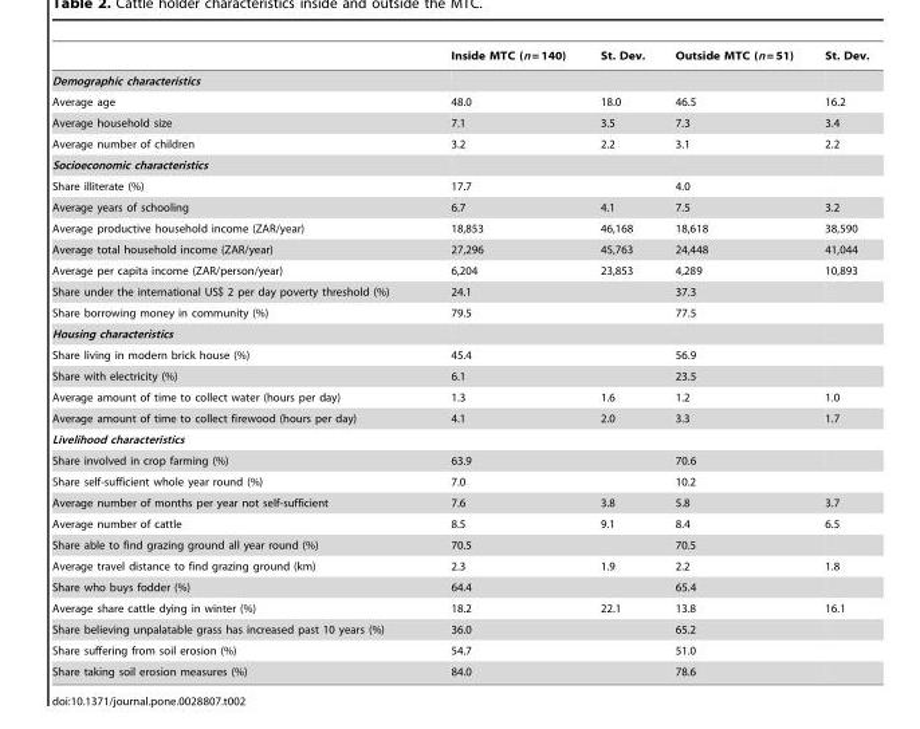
<table><thead><tr><td></td><td>Inside MTC (n = 140)</td><td>St. Dev.</td><td>Outside MTC (n = 51)</td><td>St. Dev.</td></tr></thead><tbody><tr><td colspan="5">Demographic characteristics</td></tr><tr><td>Average age</td><td>48.0</td><td>18.0</td><td>46.5</td><td>16.2</td></tr><tr><td>Average household size</td><td>7.1</td><td>3.5</td><td>7.3</td><td>3.4</td></tr><tr><td>Average number of children</td><td>3.2</td><td>2.2</td><td>3.1</td><td>2.2</td></tr><tr><td colspan="5">Socioeconomic characteristics</td></tr><tr><td>Share illiterate (%)</td><td>17.7</td><td></td><td>4.0</td><td></td></tr><tr><td>Average years of schooling</td><td>6.7</td><td>4.1</td><td>7.5</td><td>3.2</td></tr><tr><td>Average productive household income (ZAR/year)</td><td>18,853</td><td>46,168</td><td>18,618</td><td>38,590</td></tr><tr><td>Average total household income (ZAR/year)</td><td>27,296</td><td>45,763</td><td>24,448</td><td>41,044</td></tr><tr><td>Average per capita income (ZAR/person/year)</td><td>6,204</td><td>23,853</td><td>4,289</td><td>10,893</td></tr><tr><td>Share under the international US$ 2 per day poverty threshold (%)</td><td>24.1</td><td></td><td>37.3</td><td></td></tr><tr><td>Share borrowing money in community (%)</td><td>79.5</td><td></td><td>77.5</td><td></td></tr><tr><td colspan="5">Housing characteristics</td></tr><tr><td>Share living in modern brick house (%)</td><td>45.4</td><td></td><td>56.9</td><td></td></tr><tr><td>Share with electricity (%)</td><td>6.1</td><td></td><td>23.5</td><td></td></tr><tr><td>Average amount of time to collect water (hours per day)</td><td>1.3</td><td>1.6</td><td>1.2</td><td>1.0</td></tr><tr><td>Average amount of time to collect firewood (hours per day)</td><td>4.1</td><td>2.0</td><td>3.3</td><td>1.7</td></tr><tr><td colspan="5">Livelihood characteristics</td></tr><tr><td>Share involved in crop farming (%)</td><td>63.9</td><td></td><td>70.6</td><td></td></tr><tr><td>Share self-sufficient whole year round (%)</td><td>7.0</td><td></td><td>10.2</td><td></td></tr><tr><td>Average number of months per year not self-sufficient</td><td>7.6</td><td>3.8</td><td>5.8</td><td>3.7</td></tr><tr><td>Average number of cattle</td><td>8.5</td><td>9.1</td><td>8.4</td><td>6.5</td></tr><tr><td>Share able to find grazing ground all year round (%)</td><td>70.5</td><td></td><td>70.5</td><td></td></tr><tr><td>Average travel distance to find grazing ground (km)</td><td>2.3</td><td>1.9</td><td>2.2</td><td>1.8</td></tr><tr><td>Share who buys fodder (%)</td><td>64.4</td><td></td><td>65.4</td><td></td></tr><tr><td>Average share cattle dying in winter (%)</td><td>18.2</td><td>22.1</td><td>13.8</td><td>16.1</td></tr><tr><td>Share believing unpalatable grass has increased past 10 years (%)</td><td>36.0</td><td></td><td>65.2</td><td></td></tr><tr><td>Share suffering from soil erosion (%)</td><td>54.7</td><td></td><td>51.0</td><td></td></tr><tr><td>Share taking soil erosion measures (%)</td><td>84.0</td><td></td><td>78.6</td><td></td></tr></tbody></table>